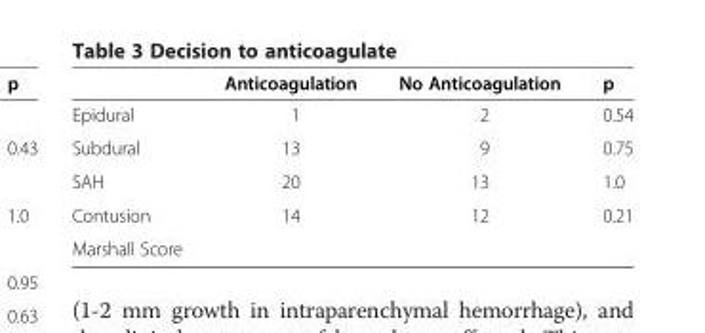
<table><thead><tr><td></td><td>Anticoagulation</td><td>No Anticoagulation</td><td>p</td></tr></thead><tbody><tr><td>Epidural</td><td>1</td><td>2</td><td>0.54</td></tr><tr><td>Subdural</td><td>13</td><td>9</td><td>0.75</td></tr><tr><td>SAH</td><td>20</td><td>13</td><td>1.0</td></tr><tr><td>Contusion</td><td>14</td><td>12</td><td>0.21</td></tr><tr><td>Marshall Score</td><td></td><td></td><td></td></tr></tbody></table>